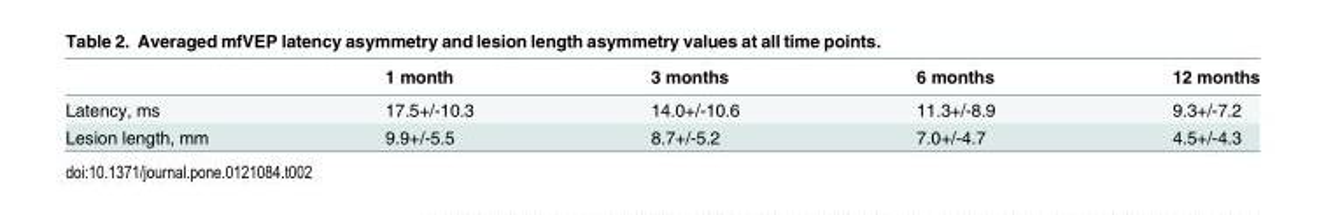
<table><thead><tr><td></td><td>1 month</td><td>3 months</td><td>6 months</td><td>12 months</td></tr></thead><tbody><tr><td>Latency, ms</td><td>17.5+/-10.3</td><td>14.0+/-10.6</td><td>11.3+/-8.9</td><td>9.3+/-7.2</td></tr><tr><td>Lesion length, mm</td><td>9.9+/-5.5</td><td>8.7+/-5.2</td><td>7.0+/-4.7</td><td>4.5+/-4.3</td></tr></tbody></table>